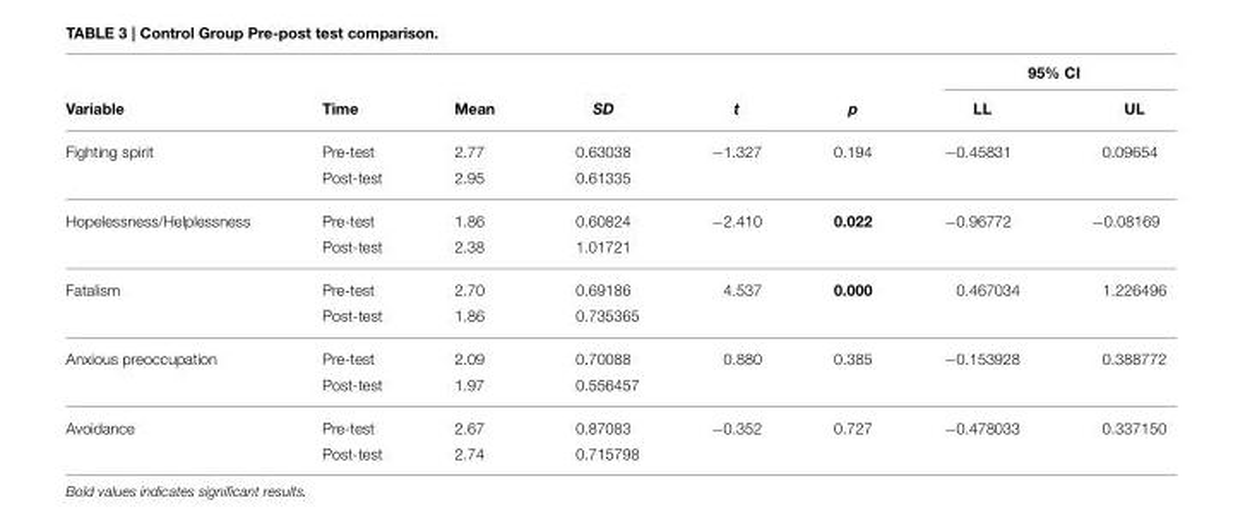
<table><thead><tr><td rowspan="2">Variable</td><td rowspan="2">Time</td><td rowspan="2">Mean</td><td rowspan="2">SD</td><td rowspan="2">t</td><td rowspan="2">p</td><td colspan="2">95% CI</td></tr><tr><td>LL</td><td>UL</td></tr></thead><tbody><tr><td rowspan="2">Fighting spirit</td><td>Pre-test</td><td>2.77</td><td>0.63038</td><td>−1.327</td><td>0.194</td><td>−0.45831</td><td>0.09654</td></tr><tr><td>Post-test</td><td>2.95</td><td>0.61335</td><td></td><td></td><td></td><td></td></tr><tr><td rowspan="2">Hopelessness/Helplessness</td><td>Pre-test</td><td>1.86</td><td>0.60824</td><td>−2.410</td><td>0.022</td><td>−0.96772</td><td>−0.08169</td></tr><tr><td>Post-test</td><td>2.38</td><td>1.01721</td><td></td><td></td><td></td><td></td></tr><tr><td rowspan="2">Fatalism</td><td>Pre-test</td><td>2.70</td><td>0.69186</td><td>4.537</td><td>0.000</td><td>0.467034</td><td>1.226496</td></tr><tr><td>Post-test</td><td>1.86</td><td>0.735365</td><td></td><td></td><td></td><td></td></tr><tr><td rowspan="2">Anxious preoccupation</td><td>Pre-test</td><td>2.09</td><td>0.70088</td><td>0.880</td><td>0.385</td><td>−0.153928</td><td>0.388772</td></tr><tr><td>Post-test</td><td>1.97</td><td>0.556457</td><td></td><td></td><td></td><td></td></tr><tr><td rowspan="2">Avoidance</td><td>Pre-test</td><td>2.67</td><td>0.87083</td><td>−0.352</td><td>0.727</td><td>−0.478033</td><td>0.337150</td></tr><tr><td>Post-test</td><td>2.74</td><td>0.715798</td><td></td><td></td><td></td><td></td></tr></tbody></table>